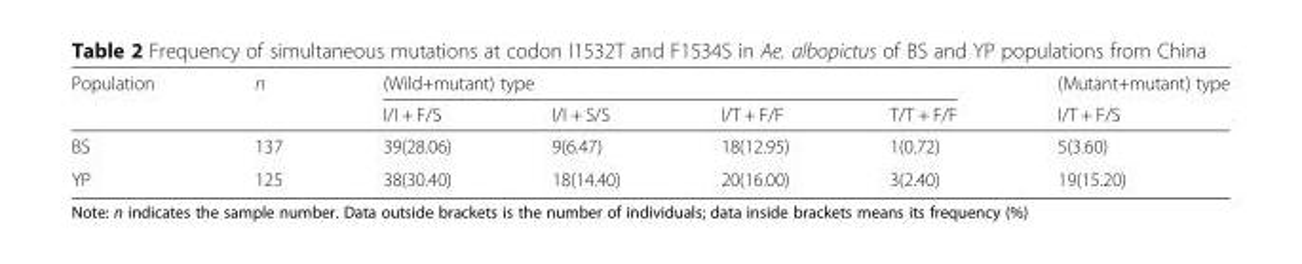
<table><thead><tr><td rowspan="2">Population</td><td rowspan="2">n</td><td colspan="4">(Wild+mutant) type</td><td rowspan="2">(Mutant+mutant) type I/T + F/S</td></tr><tr><td>I/I + F/S</td><td>I/I + S/S</td><td>I/T + F/F</td><td>T/T + F/F</td></tr></thead><tbody><tr><td>BS</td><td>137</td><td>39(28.06)</td><td>9(6.47)</td><td>18(12.95)</td><td>1(0.72)</td><td>5(3.60)</td></tr><tr><td>YP</td><td>125</td><td>38(30.40)</td><td>18(14.40)</td><td>20(16.00)</td><td>3(2.40)</td><td>19(15.20)</td></tr></tbody></table>